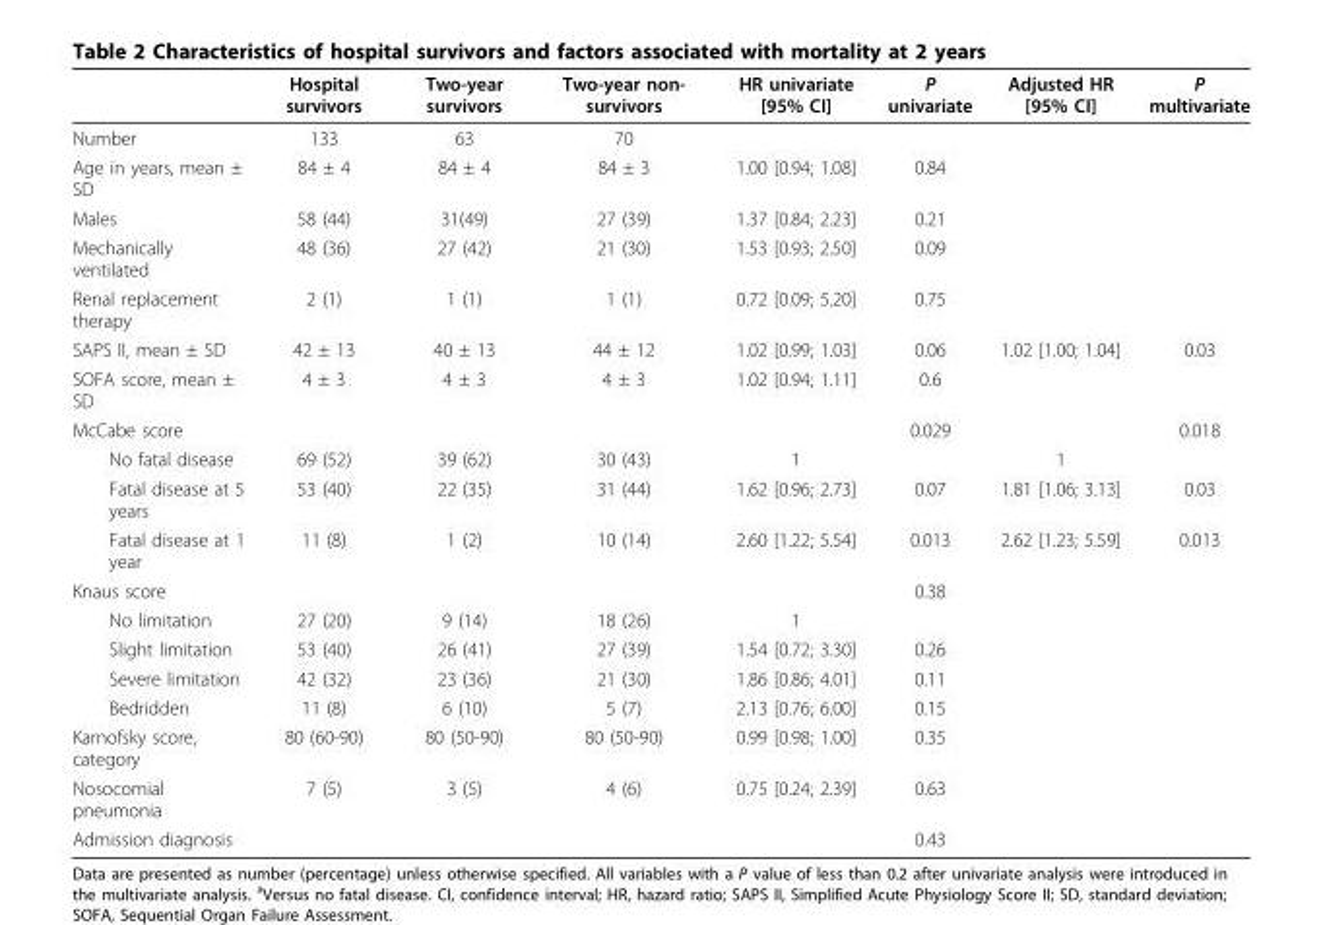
<table><thead><tr><td></td><td>Hospital survivors</td><td>Two-year survivors</td><td>Two-year non- survivors</td><td>HR univariate [95% CI]</td><td>P univariate</td><td>Adjusted HR [95% CI]</td><td>P multivariate</td></tr></thead><tbody><tr><td>Number</td><td>133</td><td>63</td><td>70</td><td></td><td></td><td></td><td></td></tr><tr><td>Age in years, mean ± SD</td><td>84 ± 4</td><td>84 ± 4</td><td>84 ± 3</td><td>1.00 [0.94; 1.08]</td><td>0.84</td><td></td><td></td></tr><tr><td>Males</td><td>58 (44)</td><td>31(49)</td><td>27 (39)</td><td>1.37 [0.84; 2.23]</td><td>0.21</td><td></td><td></td></tr><tr><td>Mechanically ventilated</td><td>48 (36)</td><td>27 (42)</td><td>21 (30)</td><td>1.53 [0.93; 2.50]</td><td>0.09</td><td></td><td></td></tr><tr><td>Renal replacement therapy</td><td>2 (1)</td><td>1 (1)</td><td>1 (1)</td><td>0.72 [0.09; 5.20]</td><td>0.75</td><td></td><td></td></tr><tr><td>SAPS II, mean ± SD</td><td>42 ± 13</td><td>40 ± 13</td><td>44 ± 12</td><td>1.02 [0.99; 1.03]</td><td>0.06</td><td>1.02 [1.00; 1.04]</td><td>0.03</td></tr><tr><td>SOFA score, mean ± SD</td><td>4 ± 3</td><td>4 ± 3</td><td>4 ± 3</td><td>1.02 [0.94; 1.11]</td><td>0.6</td><td></td><td></td></tr><tr><td>McCabe score</td><td></td><td></td><td></td><td></td><td>0.029</td><td></td><td>0.018</td></tr><tr><td>No fatal disease</td><td>69 (52)</td><td>39 (62)</td><td>30 (43)</td><td>1</td><td></td><td>1</td><td></td></tr><tr><td>Fatal disease at 5 years</td><td>53 (40)</td><td>22 (35)</td><td>31 (44)</td><td>1.62 [0.96; 2.73]</td><td>0.07</td><td>1.81 [1.06; 3.13]</td><td>0.03</td></tr><tr><td>Fatal disease at 1 year</td><td>11 (8)</td><td>1 (2)</td><td>10 (14)</td><td>2.60 [1.22; 5.54]</td><td>0.013</td><td>2.62 [1.23; 5.59]</td><td>0.013</td></tr><tr><td>Knaus score</td><td></td><td></td><td></td><td></td><td>0.38</td><td></td><td></td></tr><tr><td>No limitation</td><td>27 (20)</td><td>9 (14)</td><td>18 (26)</td><td>1</td><td></td><td></td><td></td></tr><tr><td>Slight limitation</td><td>53 (40)</td><td>26 (41)</td><td>27 (39)</td><td>1.54 [0.72; 3.30]</td><td>0.26</td><td></td><td></td></tr><tr><td>Severe limitation</td><td>42 (32)</td><td>23 (36)</td><td>21 (30)</td><td>1.86 [0.86; 4.01]</td><td>0.11</td><td></td><td></td></tr><tr><td>Bedridden</td><td>11 (8)</td><td>6 (10)</td><td>5 (7)</td><td>2.13 [0.76; 6.00]</td><td>0.15</td><td></td><td></td></tr><tr><td>Karnofsky score, category</td><td>80 (60-90)</td><td>80 (50-90)</td><td>80 (50-90)</td><td>0.99 [0.98; 1.00]</td><td>0.35</td><td></td><td></td></tr><tr><td>Nosocomial pneumonia</td><td>7 (5)</td><td>3 (5)</td><td>4 (6)</td><td>0.75 [0.24; 2.39]</td><td>0.63</td><td></td><td></td></tr><tr><td>Admission diagnosis</td><td></td><td></td><td></td><td></td><td>0.43</td><td></td><td></td></tr></tbody></table>